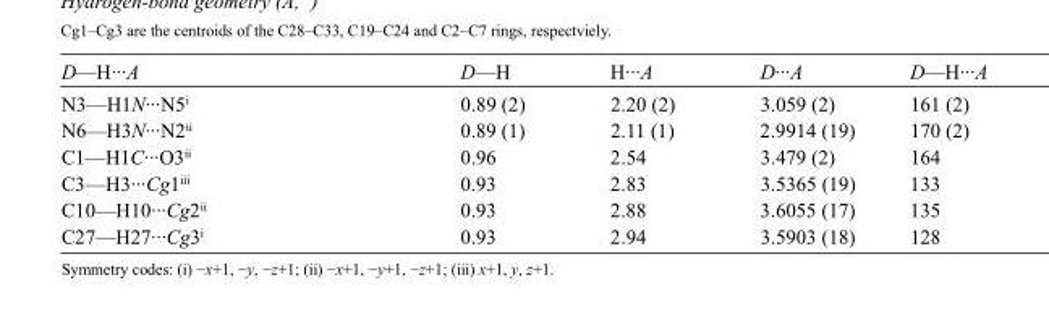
<table><tbody><tr><td>D—H···A</td><td>D—H</td><td>H···A</td><td>D···A</td><td>D—H···A</td></tr><tr><td>N3—H1N···N5<sup>i</sup></td><td>0.89 (2)</td><td>2.20 (2)</td><td>3.059 (2)</td><td>161 (2)</td></tr><tr><td>N6—H3N···N2<sup>ii</sup></td><td>0.89 (1)</td><td>2.11 (1)</td><td>2.9914 (19)</td><td>170 (2)</td></tr><tr><td>C1—H1C···O3<sup>ii</sup></td><td>0.96</td><td>2.54</td><td>3.479 (2)</td><td>164</td></tr><tr><td>C3—H3···Cg1<sup>iii</sup></td><td>0.93</td><td>2.83</td><td>3.5365 (19)</td><td>133</td></tr><tr><td>C10—H10···Cg2<sup>ii</sup></td><td>0.93</td><td>2.88</td><td>3.6055 (17)</td><td>135</td></tr><tr><td>C27—H27···Cg3<sup>i</sup></td><td>0.93</td><td>2.94</td><td>3.5903 (18)</td><td>128</td></tr></tbody></table>